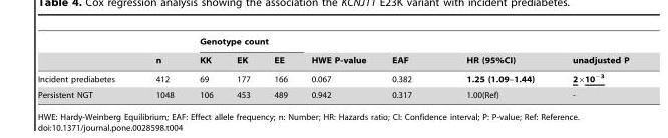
<table><thead><tr><td rowspan="2"></td><td rowspan="2">n</td><td colspan="3">Genotype count</td><td rowspan="2">HWE P-value</td><td rowspan="2">EAF</td><td rowspan="2">HR (95%CI)</td><td rowspan="2">unadjusted P</td></tr><tr><td>KK</td><td>EK</td><td>EE</td></tr></thead><tbody><tr><td>Incident prediabetes</td><td>412</td><td>69</td><td>177</td><td>166</td><td>0.067</td><td>0.382</td><td>1.25 (1.09–1.44)</td><td>2×10<sup>−3</sup></td></tr><tr><td>Persistent NGT</td><td>1048</td><td>106</td><td>453</td><td>489</td><td>0.942</td><td>0.317</td><td>1.00(Ref)</td><td>-</td></tr></tbody></table>